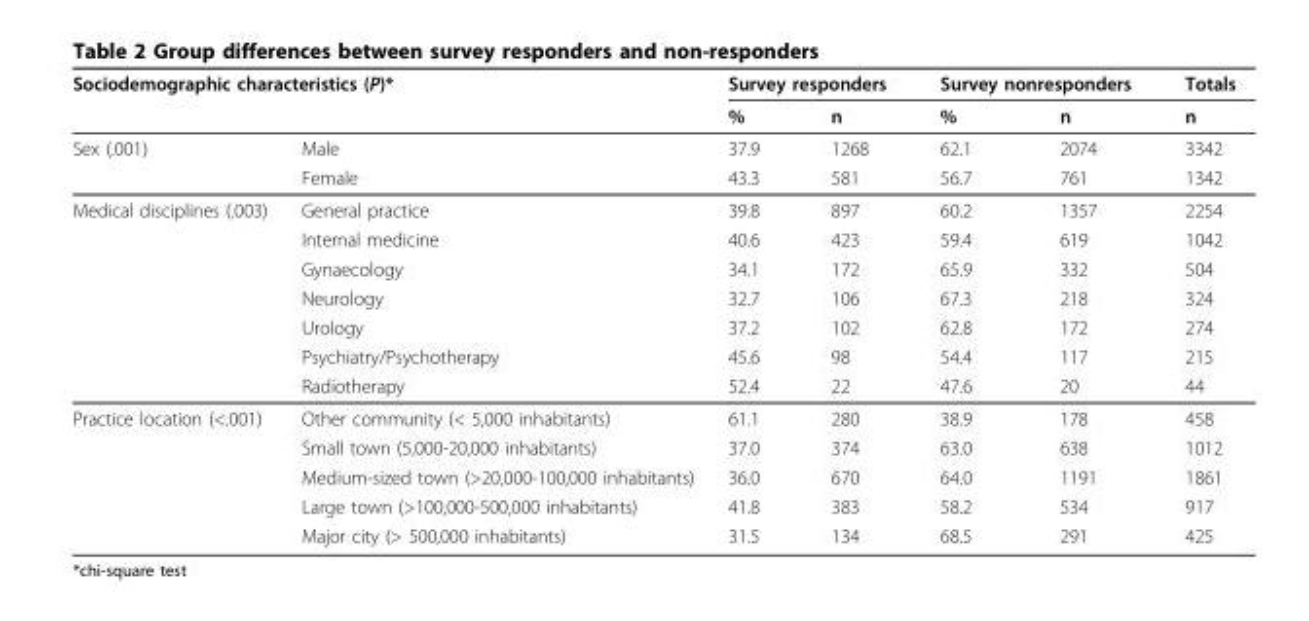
<table><thead><tr><td colspan="2">Sociodemographic characteristics (P)*</td><td colspan="2">Survey responders</td><td colspan="2">Survey nonresponders</td><td rowspan="2">Totals n</td></tr><tr><td></td><td></td><td>%</td><td>n</td><td>%</td><td>n</td></tr></thead><tbody><tr><td rowspan="2">Sex (.001)</td><td>Male</td><td>37.9</td><td>1268</td><td>62.1</td><td>2074</td><td>3342</td></tr><tr><td>Female</td><td>43.3</td><td>581</td><td>56.7</td><td>761</td><td>1342</td></tr><tr><td rowspan="7">Medical disciplines (.003)</td><td>General practice</td><td>39.8</td><td>897</td><td>60.2</td><td>1357</td><td>2254</td></tr><tr><td>Internal medicine</td><td>40.6</td><td>423</td><td>59.4</td><td>619</td><td>1042</td></tr><tr><td>Gynaecology</td><td>34.1</td><td>172</td><td>65.9</td><td>332</td><td>504</td></tr><tr><td>Neurology</td><td>32.7</td><td>106</td><td>67.3</td><td>218</td><td>324</td></tr><tr><td>Urology</td><td>37.2</td><td>102</td><td>62.8</td><td>172</td><td>274</td></tr><tr><td>Psychiatry/Psychotherapy</td><td>45.6</td><td>98</td><td>54.4</td><td>117</td><td>215</td></tr><tr><td>Radiotherapy</td><td>52.4</td><td>22</td><td>47.6</td><td>20</td><td>44</td></tr><tr><td rowspan="5">Practice location (&lt;.001)</td><td>Other community (&lt; 5,000 inhabitants)</td><td>61.1</td><td>280</td><td>38.9</td><td>178</td><td>458</td></tr><tr><td>Small town (5,000-20,000 inhabitants)</td><td>37.0</td><td>374</td><td>63.0</td><td>638</td><td>1012</td></tr><tr><td>Medium-sized town (&gt;20,000-100,000 inhabitants)</td><td>36.0</td><td>670</td><td>64.0</td><td>1191</td><td>1861</td></tr><tr><td>Large town (&gt;100,000-500,000 inhabitants)</td><td>41.8</td><td>383</td><td>58.2</td><td>534</td><td>917</td></tr><tr><td>Major city (&gt; 500,000 inhabitants)</td><td>31.5</td><td>134</td><td>68.5</td><td>291</td><td>425</td></tr></tbody></table>